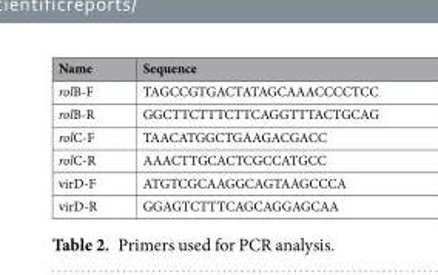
<table><thead><tr><td>Name</td><td>Sequence</td></tr></thead><tbody><tr><td>rolB-F</td><td>TAGCCGTGACTATAGCAAACCCCTCC</td></tr><tr><td>rolB-R</td><td>GGCTTCTTTCTTCAGGTTTACTGCAG</td></tr><tr><td>rolC-F</td><td>TAACATGGCTGAAGACGACC</td></tr><tr><td>rolC-R</td><td>AAACTTGCACTCGCCATGCC</td></tr><tr><td>virD-F</td><td>ATGTCGCAAGGCAGTAAGCCCA</td></tr><tr><td>virD-R</td><td>GGAGTCTTTCAGCAGGAGCAA</td></tr></tbody></table>